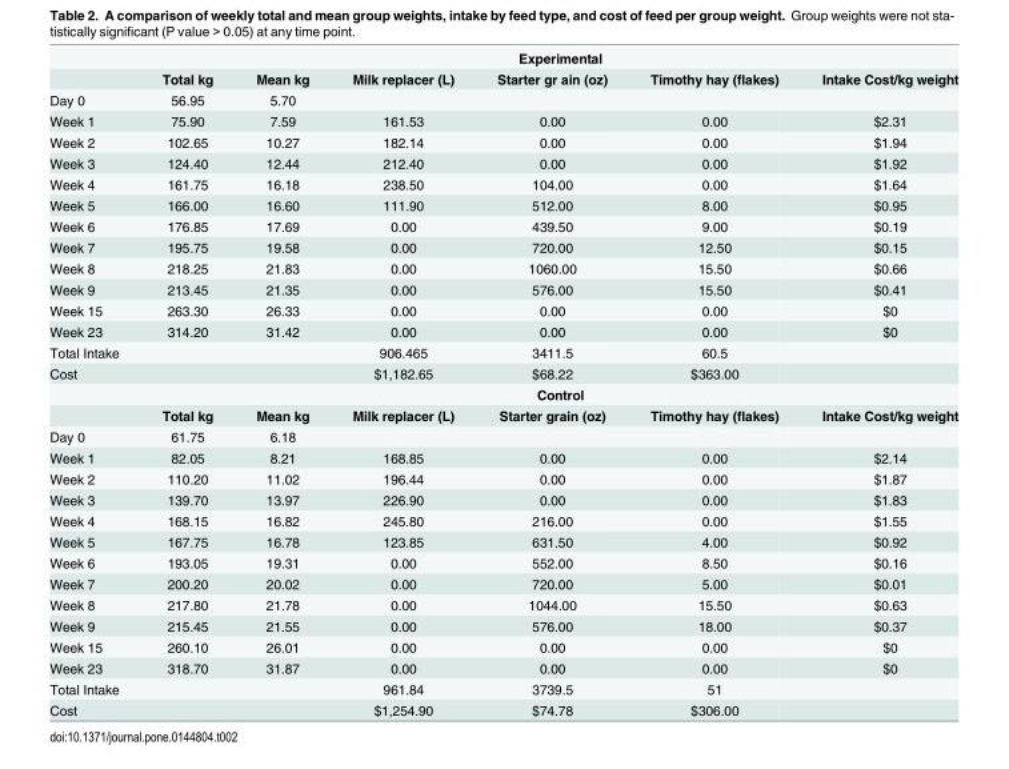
<table><thead><tr><td rowspan="2"></td><td colspan="6">Experimental</td></tr><tr><td>Total kg</td><td>Mean kg</td><td>Milk replacer (L)</td><td>Starter gr ain (oz)</td><td>Timothy hay (flakes)</td><td>Intake Cost/kg weight</td></tr></thead><tbody><tr><td>Day 0</td><td>56.95</td><td>5.70</td><td></td><td></td><td></td><td></td></tr><tr><td>Week 1</td><td>75.90</td><td>7.59</td><td>161.53</td><td>0.00</td><td>0.00</td><td>$2.31</td></tr><tr><td>Week 2</td><td>102.65</td><td>10.27</td><td>182.14</td><td>0.00</td><td>0.00</td><td>$1.94</td></tr><tr><td>Week 3</td><td>124.40</td><td>12.44</td><td>212.40</td><td>0.00</td><td>0.00</td><td>$1.92</td></tr><tr><td>Week 4</td><td>161.75</td><td>16.18</td><td>238.50</td><td>104.00</td><td>0.00</td><td>$1.64</td></tr><tr><td>Week 5</td><td>166.00</td><td>16.60</td><td>111.90</td><td>512.00</td><td>8.00</td><td>$0.95</td></tr><tr><td>Week 6</td><td>176.85</td><td>17.69</td><td>0.00</td><td>439.50</td><td>9.00</td><td>$0.19</td></tr><tr><td>Week 7</td><td>195.75</td><td>19.58</td><td>0.00</td><td>720.00</td><td>12.50</td><td>$0.15</td></tr><tr><td>Week 8</td><td>218.25</td><td>21.83</td><td>0.00</td><td>1060.00</td><td>15.50</td><td>$0.66</td></tr><tr><td>Week 9</td><td>213.45</td><td>21.35</td><td>0.00</td><td>576.00</td><td>15.50</td><td>$0.41</td></tr><tr><td>Week 15</td><td>263.30</td><td>26.33</td><td>0.00</td><td>0.00</td><td>0.00</td><td>$0</td></tr><tr><td>Week 23</td><td>314.20</td><td>31.42</td><td>0.00</td><td>0.00</td><td>0.00</td><td>$0</td></tr><tr><td>Total Intake</td><td></td><td></td><td>906.465</td><td>3411.5</td><td>60.5</td><td></td></tr><tr><td rowspan="3">Cost</td><td></td><td></td><td>$1,182.65</td><td>$68.22</td><td>$363.00</td><td></td></tr><tr><td colspan="6">Control</td></tr><tr><td>Total kg</td><td>Mean kg</td><td>Milk replacer (L)</td><td>Starter grain (oz)</td><td>Timothy hay (flakes)</td><td>Intake Cost/kg weight</td></tr><tr><td>Day 0</td><td>61.75</td><td>6.18</td><td></td><td></td><td></td><td></td></tr><tr><td>Week 1</td><td>82.05</td><td>8.21</td><td>168.85</td><td>0.00</td><td>0.00</td><td>$2.14</td></tr><tr><td>Week 2</td><td>110.20</td><td>11.02</td><td>196.44</td><td>0.00</td><td>0.00</td><td>$1.87</td></tr><tr><td>Week 3</td><td>139.70</td><td>13.97</td><td>226.90</td><td>0.00</td><td>0.00</td><td>$1.83</td></tr><tr><td>Week 4</td><td>168.15</td><td>16.82</td><td>245.80</td><td>216.00</td><td>0.00</td><td>$1.55</td></tr><tr><td>Week 5</td><td>167.75</td><td>16.78</td><td>123.85</td><td>631.50</td><td>4.00</td><td>$0.92</td></tr><tr><td>Week 6</td><td>193.05</td><td>19.31</td><td>0.00</td><td>552.00</td><td>8.50</td><td>$0.16</td></tr><tr><td>Week 7</td><td>200.20</td><td>20.02</td><td>0.00</td><td>720.00</td><td>5.00</td><td>$0.01</td></tr><tr><td>Week 8</td><td>217.80</td><td>21.78</td><td>0.00</td><td>1044.00</td><td>15.50</td><td>$0.63</td></tr><tr><td>Week 9</td><td>215.45</td><td>21.55</td><td>0.00</td><td>576.00</td><td>18.00</td><td>$0.37</td></tr><tr><td>Week 15</td><td>260.10</td><td>26.01</td><td>0.00</td><td>0.00</td><td>0.00</td><td>$0</td></tr><tr><td>Week 23</td><td>318.70</td><td>31.87</td><td>0.00</td><td>0.00</td><td>0.00</td><td>$0</td></tr><tr><td>Total Intake</td><td></td><td></td><td>961.84</td><td>3739.5</td><td>51</td><td></td></tr><tr><td>Cost</td><td></td><td></td><td>$1,254.90</td><td>$74.78</td><td>$306.00</td><td></td></tr></tbody></table>